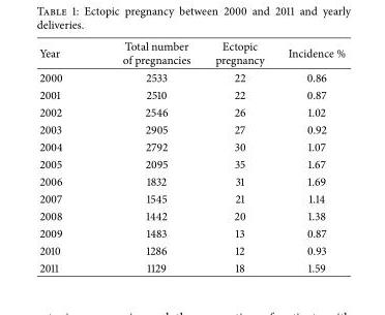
<table><thead><tr><td>Year</td><td>Total number of pregnancies</td><td>Ectopic pregnancy</td><td>Incidence %</td></tr></thead><tbody><tr><td>2000</td><td>2533</td><td>22</td><td>0.86</td></tr><tr><td>2001</td><td>2510</td><td>22</td><td>0.87</td></tr><tr><td>2002</td><td>2546</td><td>26</td><td>1.02</td></tr><tr><td>2003</td><td>2905</td><td>27</td><td>0.92</td></tr><tr><td>2004</td><td>2792</td><td>30</td><td>1.07</td></tr><tr><td>2005</td><td>2095</td><td>35</td><td>1.67</td></tr><tr><td>2006</td><td>1832</td><td>31</td><td>1.69</td></tr><tr><td>2007</td><td>1545</td><td>21</td><td>1.14</td></tr><tr><td>2008</td><td>1442</td><td>20</td><td>1.38</td></tr><tr><td>2009</td><td>1483</td><td>13</td><td>0.87</td></tr><tr><td>2010</td><td>1286</td><td>12</td><td>0.93</td></tr><tr><td>2011</td><td>1129</td><td>18</td><td>1.59</td></tr></tbody></table>